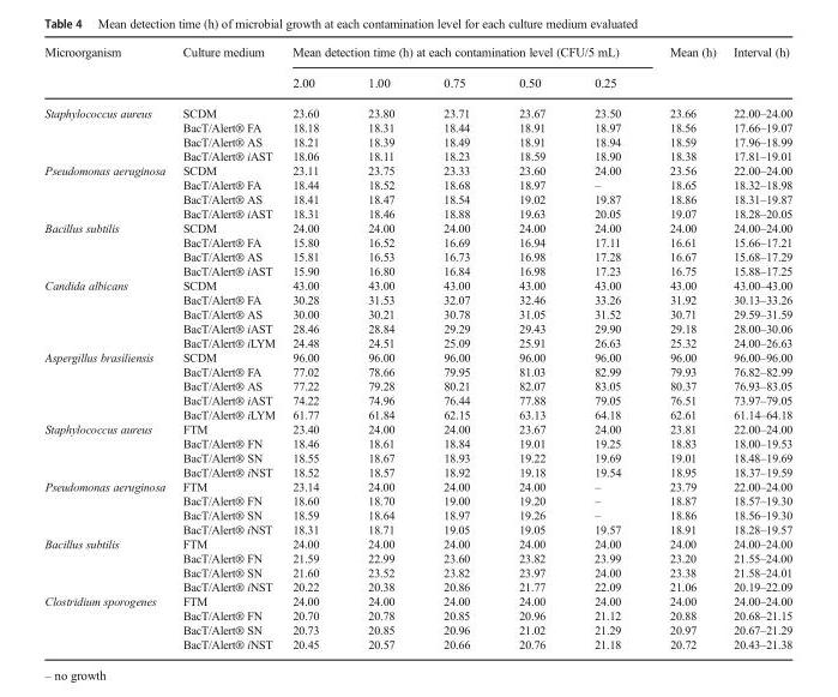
<table><thead><tr><td rowspan="2">Microorganism</td><td rowspan="2">Culture medium</td><td colspan="5">Mean detection time (h) at each contamination level (CFU/5 mL)</td><td rowspan="2">Mean (h)</td><td rowspan="2">Interval (h)</td></tr><tr><td>2.00</td><td>1.00</td><td>0.75</td><td>0.50</td><td>0.25</td></tr></thead><tbody><tr><td rowspan="4">Staphylococcus aureus</td><td>SCDM</td><td>23.60</td><td>23.80</td><td>23.71</td><td>23.67</td><td>23.50</td><td>23.66</td><td>22.00–24.00</td></tr><tr><td>BacT/Alert® FA</td><td>18.18</td><td>18.31</td><td>18.44</td><td>18.91</td><td>18.97</td><td>18.56</td><td>17.66–19.07</td></tr><tr><td>BacT/Alert® AS</td><td>18.21</td><td>18.39</td><td>18.49</td><td>18.91</td><td>18.94</td><td>18.59</td><td>17.96–18.99</td></tr><tr><td>BacT/Alert® iAST</td><td>18.06</td><td>18.11</td><td>18.23</td><td>18.59</td><td>18.90</td><td>18.38</td><td>17.81–19.01</td></tr><tr><td rowspan="4">Pseudomonas aeruginosa</td><td>SCDM</td><td>23.11</td><td>23.75</td><td>23.33</td><td>23.60</td><td>24.00</td><td>23.56</td><td>22.00–24.00</td></tr><tr><td>BacT/Alert® FA</td><td>18.44</td><td>18.52</td><td>18.68</td><td>18.97</td><td>–</td><td>18.65</td><td>18.32–18.98</td></tr><tr><td>BacT/Alert® AS</td><td>18.41</td><td>18.47</td><td>18.54</td><td>19.02</td><td>19.87</td><td>18.86</td><td>18.31–19.87</td></tr><tr><td>BacT/Alert® iAST</td><td>18.31</td><td>18.46</td><td>18.88</td><td>19.63</td><td>20.05</td><td>19.07</td><td>18.28–20.05</td></tr><tr><td rowspan="4">Bacillus subtilis</td><td>SCDM</td><td>24.00</td><td>24.00</td><td>24.00</td><td>24.00</td><td>24.00</td><td>24.00</td><td>24.00–24.00</td></tr><tr><td>BacT/Alert® FA</td><td>15.80</td><td>16.52</td><td>16.69</td><td>16.94</td><td>17.11</td><td>16.61</td><td>15.66–17.21</td></tr><tr><td>BacT/Alert® AS</td><td>15.81</td><td>16.53</td><td>16.73</td><td>16.98</td><td>17.28</td><td>16.67</td><td>15.68–17.29</td></tr><tr><td>BacT/Alert® iAST</td><td>15.90</td><td>16.80</td><td>16.84</td><td>16.98</td><td>17.23</td><td>16.75</td><td>15.88–17.25</td></tr><tr><td rowspan="5">Candida albicans</td><td>SCDM</td><td>43.00</td><td>43.00</td><td>43.00</td><td>43.00</td><td>43.00</td><td>43.00</td><td>43.00–43.00</td></tr><tr><td>BacT/Alert® FA</td><td>30.28</td><td>31.53</td><td>32.07</td><td>32.46</td><td>33.26</td><td>31.92</td><td>30.13–33.26</td></tr><tr><td>BacT/Alert® AS</td><td>30.00</td><td>30.21</td><td>30.78</td><td>31.05</td><td>31.52</td><td>30.71</td><td>29.59–31.59</td></tr><tr><td>BacT/Alert® iAST</td><td>28.46</td><td>28.84</td><td>29.29</td><td>29.43</td><td>29.90</td><td>29.18</td><td>28.00–30.06</td></tr><tr><td>BacT/Alert® iLYM</td><td>24.48</td><td>24.51</td><td>25.09</td><td>25.91</td><td>26.63</td><td>25.32</td><td>24.00–26.63</td></tr><tr><td rowspan="5">Aspergillus brasiliensis</td><td>SCDM</td><td>96.00</td><td>96.00</td><td>96.00</td><td>96.00</td><td>96.00</td><td>96.00</td><td>96.00–96.00</td></tr><tr><td>BacT/Alert® FA</td><td>77.02</td><td>78.66</td><td>79.95</td><td>81.03</td><td>82.99</td><td>79.93</td><td>76.82–82.99</td></tr><tr><td>BacT/Alert® AS</td><td>77.22</td><td>79.28</td><td>80.21</td><td>82.07</td><td>83.05</td><td>80.37</td><td>76.93–83.05</td></tr><tr><td>BacT/Alert® iAST</td><td>74.22</td><td>74.96</td><td>76.44</td><td>77.88</td><td>79.05</td><td>76.51</td><td>73.97–79.05</td></tr><tr><td>BacT/Alert® iLYM</td><td>61.77</td><td>61.84</td><td>62.15</td><td>63.13</td><td>64.18</td><td>62.61</td><td>61.14–64.18</td></tr><tr><td rowspan="4">Staphylococcus aureus</td><td>FTM</td><td>23.40</td><td>24.00</td><td>24.00</td><td>23.67</td><td>24.00</td><td>23.81</td><td>22.00–24.00</td></tr><tr><td>BacT/Alert® FN</td><td>18.46</td><td>18.61</td><td>18.84</td><td>19.01</td><td>19.25</td><td>18.83</td><td>18.00–19.53</td></tr><tr><td>BacT/Alert® SN</td><td>18.55</td><td>18.67</td><td>18.93</td><td>19.22</td><td>19.69</td><td>19.01</td><td>18.48–19.69</td></tr><tr><td>BacT/Alert® iNST</td><td>18.52</td><td>18.57</td><td>18.92</td><td>19.18</td><td>19.54</td><td>18.95</td><td>18.37–19.59</td></tr><tr><td rowspan="4">Pseudomonas aeruginosa</td><td>FTM</td><td>23.14</td><td>24.00</td><td>24.00</td><td>24.00</td><td>–</td><td>23.79</td><td>22.00–24.00</td></tr><tr><td>BacT/Alert® FN</td><td>18.60</td><td>18.70</td><td>19.00</td><td>19.20</td><td>–</td><td>18.87</td><td>18.57–19.30</td></tr><tr><td>BacT/Alert® SN</td><td>18.59</td><td>18.64</td><td>18.97</td><td>19.26</td><td>–</td><td>18.86</td><td>18.56–19.30</td></tr><tr><td>BacT/Alert® iNST</td><td>18.31</td><td>18.71</td><td>19.05</td><td>19.05</td><td>19.57</td><td>18.91</td><td>18.28–19.57</td></tr><tr><td rowspan="4">Bacillus subtilis</td><td>FTM</td><td>24.00</td><td>24.00</td><td>24.00</td><td>24.00</td><td>24.00</td><td>24.00</td><td>24.00–24.00</td></tr><tr><td>BacT/Alert® FN</td><td>21.59</td><td>22.99</td><td>23.60</td><td>23.82</td><td>23.99</td><td>23.20</td><td>21.55–24.00</td></tr><tr><td>BacT/Alert® SN</td><td>21.60</td><td>23.52</td><td>23.82</td><td>23.97</td><td>24.00</td><td>23.38</td><td>21.58–24.01</td></tr><tr><td>BacT/Alert® iNST</td><td>20.22</td><td>20.38</td><td>20.86</td><td>21.77</td><td>22.09</td><td>21.06</td><td>20.19–22.09</td></tr><tr><td rowspan="4">Clostridium sporogenes</td><td>FTM</td><td>24.00</td><td>24.00</td><td>24.00</td><td>24.00</td><td>24.00</td><td>24.00</td><td>24.00–24.00</td></tr><tr><td>BacT/Alert® FN</td><td>20.70</td><td>20.78</td><td>20.85</td><td>20.96</td><td>21.12</td><td>20.88</td><td>20.68–21.15</td></tr><tr><td>BacT/Alert® SN</td><td>20.73</td><td>20.85</td><td>20.96</td><td>21.02</td><td>21.29</td><td>20.97</td><td>20.67–21.29</td></tr><tr><td>BacT/Alert® iNST</td><td>20.45</td><td>20.57</td><td>20.66</td><td>20.76</td><td>21.18</td><td>20.72</td><td>20.43–21.38</td></tr></tbody></table>